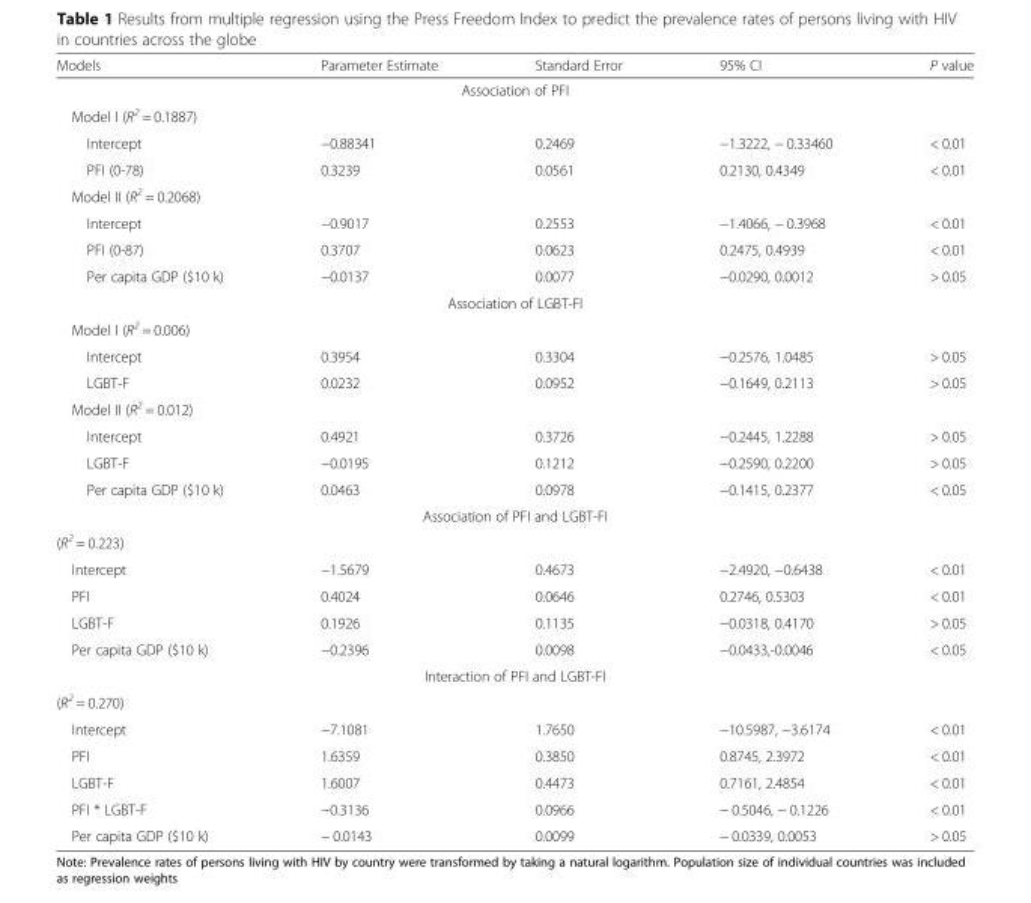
<table><thead><tr><td>Models</td><td>Parameter Estimate</td><td>Standard Error</td><td>95% CI</td><td>P value</td></tr></thead><tbody><tr><td colspan="5">Association of PFI</td></tr><tr><td colspan="5">Model I (R<sup>2</sup> = 0.1887)</td></tr><tr><td>Intercept</td><td>−0.88341</td><td>0.2469</td><td>−1.3222, − 0.33460</td><td>&lt; 0.01</td></tr><tr><td>PFI (0-78)</td><td>0.3239</td><td>0.0561</td><td>0.2130, 0.4349</td><td>&lt; 0.01</td></tr><tr><td colspan="5">Model II (R<sup>2</sup> = 0.2068)</td></tr><tr><td>Intercept</td><td>−0.9017</td><td>0.2553</td><td>−1.4066, − 0.3968</td><td>&lt; 0.01</td></tr><tr><td>PFI (0-87)</td><td>0.3707</td><td>0.0623</td><td>0.2475, 0.4939</td><td>&lt; 0.01</td></tr><tr><td>Per capita GDP ($10 k)</td><td>−0.0137</td><td>0.0077</td><td>−0.0290, 0.0012</td><td>&gt; 0.05</td></tr><tr><td colspan="5">Association of LGBT-FI</td></tr><tr><td colspan="5">Model I (R<sup>2</sup> = 0.006)</td></tr><tr><td>Intercept</td><td>0.3954</td><td>0.3304</td><td>−0.2576, 1.0485</td><td>&gt; 0.05</td></tr><tr><td>LGBT-F</td><td>0.0232</td><td>0.0952</td><td>−0.1649, 0.2113</td><td>&gt; 0.05</td></tr><tr><td colspan="5">Model II (R<sup>2</sup> = 0.012)</td></tr><tr><td>Intercept</td><td>0.4921</td><td>0.3726</td><td>−0.2445, 1.2288</td><td>&gt; 0.05</td></tr><tr><td>LGBT-F</td><td>−0.0195</td><td>0.1212</td><td>−0.2590, 0.2200</td><td>&gt; 0.05</td></tr><tr><td>Per capita GDP ($10 k)</td><td>0.0463</td><td>0.0978</td><td>−0.1415, 0.2377</td><td>&lt; 0.05</td></tr><tr><td colspan="5">Association of PFI and LGBT-FI</td></tr><tr><td colspan="5">(R<sup>2</sup> = 0.223)</td></tr><tr><td>Intercept</td><td>−1.5679</td><td>0.4673</td><td>−2.4920, −0.6438</td><td>&lt; 0.01</td></tr><tr><td>PFI</td><td>0.4024</td><td>0.0646</td><td>0.2746, 0.5303</td><td>&lt; 0.01</td></tr><tr><td>LGBT-F</td><td>0.1926</td><td>0.1135</td><td>−0.0318, 0.4170</td><td>&gt; 0.05</td></tr><tr><td>Per capita GDP ($10 k)</td><td>−0.2396</td><td>0.0098</td><td>−0.0433,-0.0046</td><td>&lt; 0.05</td></tr><tr><td colspan="5">Interaction of PFI and LGBT-FI</td></tr><tr><td colspan="5">(R<sup>2</sup> = 0.270)</td></tr><tr><td>Intercept</td><td>−7.1081</td><td>1.7650</td><td>−10.5987, −3.6174</td><td>&lt; 0.01</td></tr><tr><td>PFI</td><td>1.6359</td><td>0.3850</td><td>0.8745, 2.3972</td><td>&lt; 0.01</td></tr><tr><td>LGBT-F</td><td>1.6007</td><td>0.4473</td><td>0.7161, 2.4854</td><td>&lt; 0.01</td></tr><tr><td>PFI * LGBT-F</td><td>−0.3136</td><td>0.0966</td><td>− 0.5046, − 0.1226</td><td>&lt; 0.01</td></tr><tr><td>Per capita GDP ($10 k)</td><td>− 0.0143</td><td>0.0099</td><td>− 0.0339, 0.0053</td><td>&gt; 0.05</td></tr></tbody></table>